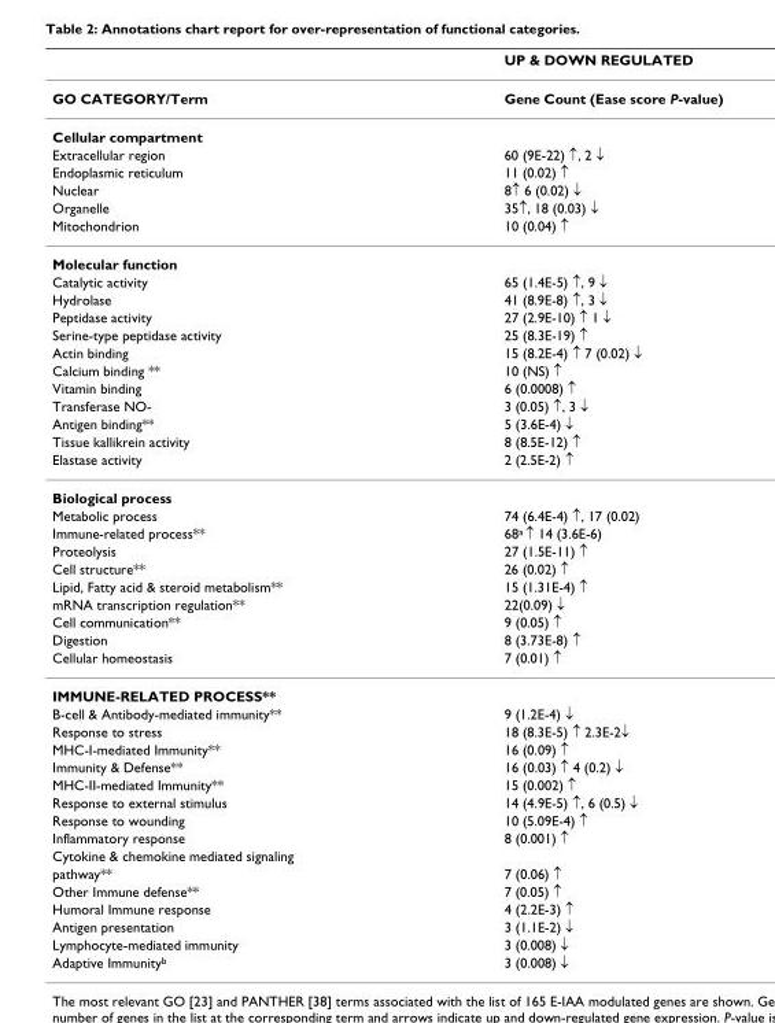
<table><thead><tr><td></td><td>UP &amp; DOWN REGULATED</td></tr></thead><tbody><tr><td>GO CATEGORY/Term</td><td>Gene Count (Ease score P-value)</td></tr><tr><td colspan="2">Cellular compartment</td></tr><tr><td>Extracellular region</td><td>60 (9E-22) ↑, 2 ↓</td></tr><tr><td>Endoplasmic reticulum</td><td>11 (0.02) ↑</td></tr><tr><td>Nuclear</td><td>8↑ 6 (0.02) ↓</td></tr><tr><td>Organelle</td><td>35↑, 18 (0.03) ↓</td></tr><tr><td>Mitochondrion</td><td>10 (0.04) ↑</td></tr><tr><td colspan="2">Molecular function</td></tr><tr><td>Catalytic activity</td><td>65 (1.4E-5) ↑, 9 ↓</td></tr><tr><td>Hydrolase</td><td>41 (8.9E-8) ↑, 3 ↓</td></tr><tr><td>Peptidase activity</td><td>27 (2.9E-10) ↑ 1 ↓</td></tr><tr><td>Serine-type peptidase activity</td><td>25 (8.3E-19) ↑</td></tr><tr><td>Actin binding</td><td>15 (8.2E-4) ↑ 7 (0.02) ↓</td></tr><tr><td>Calcium binding **</td><td>10 (NS) ↑</td></tr><tr><td>Vitamin binding</td><td>6 (0.0008) ↑</td></tr><tr><td>Transferase NO-</td><td>3 (0.05) ↑, 3 ↓</td></tr><tr><td>Antigen binding**</td><td>5 (3.6E-4) ↓</td></tr><tr><td>Tissue kallikrein activity</td><td>8 (8.5E-12) ↑</td></tr><tr><td>Elastase activity</td><td>2 (2.5E-2) ↑</td></tr><tr><td colspan="2">Biological process</td></tr><tr><td>Metabolic process</td><td>74 (6.4E-4) ↑, 17 (0.02)</td></tr><tr><td>Immune-related process**</td><td>68<sup>a</sup> ↑ 14 (3.6E-6)</td></tr><tr><td>Proteolysis</td><td>27 (1.5E-11) ↑</td></tr><tr><td>Cell structure**</td><td>26 (0.02) ↑</td></tr><tr><td>Lipid, Fatty acid &amp; steroid metabolism**</td><td>15 (1.31E-4) ↑</td></tr><tr><td>mRNA transcription regulation**</td><td>22(0.09) ↓</td></tr><tr><td>Cell communication**</td><td>9 (0.05) ↑</td></tr><tr><td>Digestion</td><td>8 (3.73E-8) ↑</td></tr><tr><td>Cellular homeostasis</td><td>7 (0.01) ↑</td></tr><tr><td colspan="2">IMMUNE-RELATED PROCESS**</td></tr><tr><td>B-cell &amp; Antibody-mediated immunity**</td><td>9 (1.2E-4) ↓</td></tr><tr><td>Response to stress</td><td>18 (8.3E-5) ↑ 2.3E-2↓</td></tr><tr><td>MHC-I-mediated Immunity**</td><td>16 (0.09) ↑</td></tr><tr><td>Immunity &amp; Defense**</td><td>16 (0.03) ↑ 4 (0.2) ↓</td></tr><tr><td>MHC-II-mediated Immunity**</td><td>15 (0.002) ↑</td></tr><tr><td>Response to external stimulus</td><td>14 (4.9E-5) ↑, 6 (0.5) ↓</td></tr><tr><td>Response to wounding</td><td>10 (5.09E-4) ↑</td></tr><tr><td>Inflammatory response</td><td>8 (0.001) ↑</td></tr><tr><td colspan="2">Cytokine &amp; chemokine mediated signaling</td></tr><tr><td>pathway**</td><td>7 (0.06) ↑</td></tr><tr><td>Other Immune defense**</td><td>7 (0.05) ↑</td></tr><tr><td>Humoral Immune response</td><td>4 (2.2E-3) ↑</td></tr><tr><td>Antigen presentation</td><td>3 (1.1E-2) ↓</td></tr><tr><td>Lymphocyte-mediated immunity</td><td>3 (0.008) ↓</td></tr><tr><td>Adaptive Immunity<sup>b</sup></td><td>3 (0.008) ↓</td></tr></tbody></table>